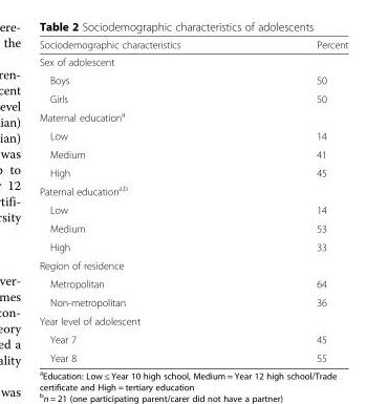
<table><thead><tr><td>Sociodemographic characteristics</td><td>Percent</td></tr></thead><tbody><tr><td colspan="2">Sex of adolescent</td></tr><tr><td>Boys</td><td>50</td></tr><tr><td>Girls</td><td>50</td></tr><tr><td colspan="2">Maternal education<sup>a</sup></td></tr><tr><td>Low</td><td>14</td></tr><tr><td>Medium</td><td>41</td></tr><tr><td>High</td><td>45</td></tr><tr><td colspan="2">Paternal education<sup>a,b</sup></td></tr><tr><td>Low</td><td>14</td></tr><tr><td>Medium</td><td>53</td></tr><tr><td>High</td><td>33</td></tr><tr><td colspan="2">Region of residence</td></tr><tr><td>Metropolitan</td><td>64</td></tr><tr><td>Non-metropolitan</td><td>36</td></tr><tr><td colspan="2">Year level of adolescent</td></tr><tr><td>Year 7</td><td>45</td></tr><tr><td>Year 8</td><td>55</td></tr></tbody></table>